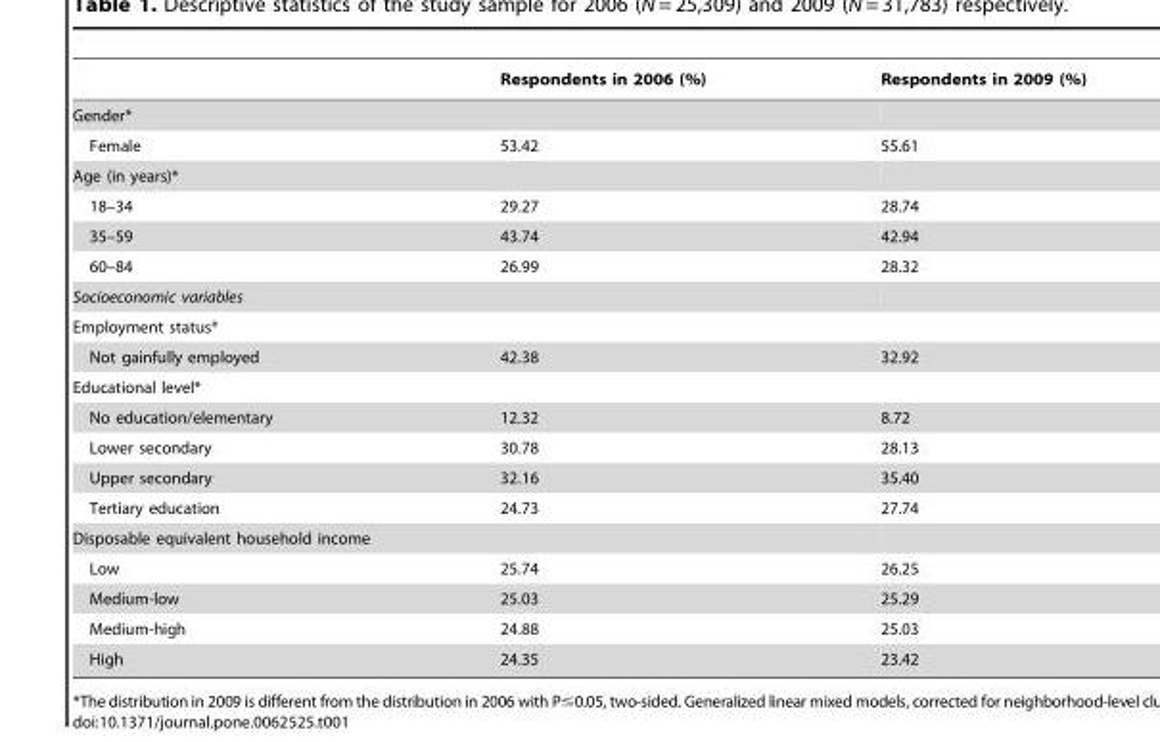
<table><thead><tr><td></td><td>Respondents in 2006 (%)</td><td>Respondents in 2009 (%)</td></tr></thead><tbody><tr><td colspan="3">Gender*</td></tr><tr><td>Female</td><td>53.42</td><td>55.61</td></tr><tr><td colspan="3">Age (in years)*</td></tr><tr><td>18–34</td><td>29.27</td><td>28.74</td></tr><tr><td>35–59</td><td>43.74</td><td>42.94</td></tr><tr><td>60–84</td><td>26.99</td><td>28.32</td></tr><tr><td colspan="3">Socioeconomic variables</td></tr><tr><td colspan="3">Employment status*</td></tr><tr><td>Not gainfully employed</td><td>42.38</td><td>32.92</td></tr><tr><td colspan="3">Educational level*</td></tr><tr><td>No education/elementary</td><td>12.32</td><td>8.72</td></tr><tr><td>Lower secondary</td><td>30.78</td><td>28.13</td></tr><tr><td>Upper secondary</td><td>32.16</td><td>35.40</td></tr><tr><td>Tertiary education</td><td>24.73</td><td>27.74</td></tr><tr><td colspan="3">Disposable equivalent household income</td></tr><tr><td>Low</td><td>25.74</td><td>26.25</td></tr><tr><td>Medium-low</td><td>25.03</td><td>25.29</td></tr><tr><td>Medium-high</td><td>24.88</td><td>25.03</td></tr><tr><td>High</td><td>24.35</td><td>23.42</td></tr></tbody></table>